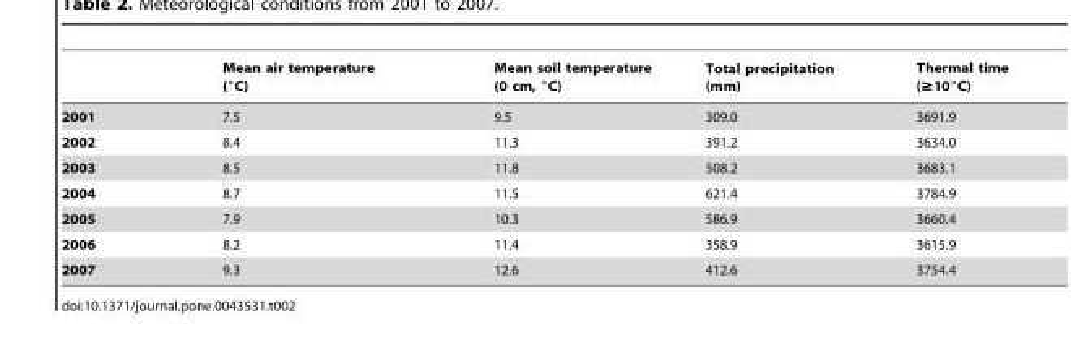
<table><thead><tr><td></td><td>Mean air temperature (°C)</td><td>Mean soil temperature (0 cm, °C)</td><td>Total precipitation (mm)</td><td>Thermal time (≥10°C)</td></tr></thead><tbody><tr><td>2001</td><td>7.5</td><td>9.5</td><td>309.0</td><td>3691.9</td></tr><tr><td>2002</td><td>8.4</td><td>11.3</td><td>391.2</td><td>3634.0</td></tr><tr><td>2003</td><td>8.5</td><td>11.8</td><td>508.2</td><td>3683.1</td></tr><tr><td>2004</td><td>8.7</td><td>11.5</td><td>621.4</td><td>3784.9</td></tr><tr><td>2005</td><td>7.9</td><td>10.3</td><td>586.9</td><td>3660.4</td></tr><tr><td>2006</td><td>8.2</td><td>11.4</td><td>358.9</td><td>3615.9</td></tr><tr><td>2007</td><td>9.3</td><td>12.6</td><td>412.6</td><td>3754.4</td></tr></tbody></table>